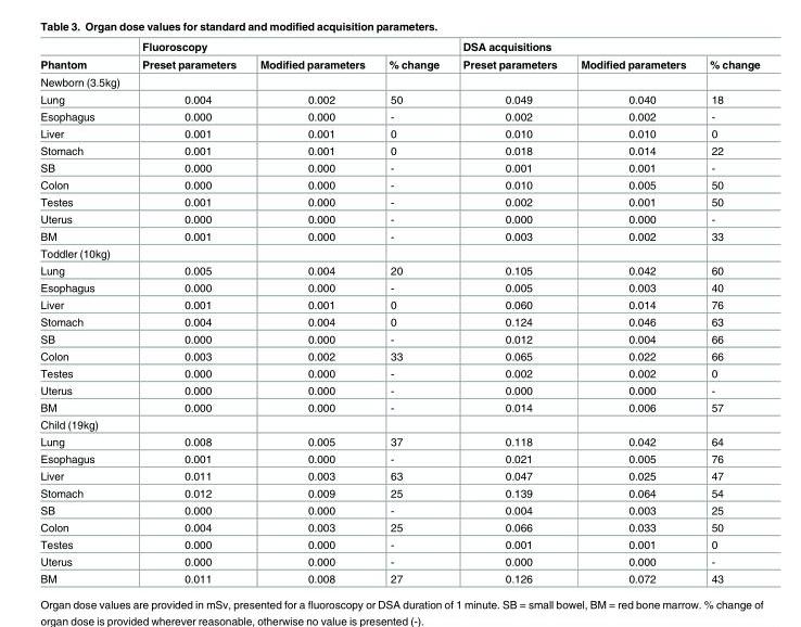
<table><thead><tr><td rowspan="2">Phantom</td><td colspan="3">Fluoroscopy</td><td colspan="3">DSA acquisitions</td></tr><tr><td>Preset parameters</td><td>Modified parameters</td><td>% change</td><td>Preset parameters</td><td>Modified parameters</td><td>% change</td></tr></thead><tbody><tr><td colspan="7">Newborn (3.5kg)</td></tr><tr><td>Lung</td><td>0.004</td><td>0.002</td><td>50</td><td>0.049</td><td>0.040</td><td>18</td></tr><tr><td>Esophagus</td><td>0.000</td><td>0.000</td><td>-</td><td>0.002</td><td>0.002</td><td>-</td></tr><tr><td>Liver</td><td>0.001</td><td>0.001</td><td>0</td><td>0.010</td><td>0.010</td><td>0</td></tr><tr><td>Stomach</td><td>0.001</td><td>0.001</td><td>0</td><td>0.018</td><td>0.014</td><td>22</td></tr><tr><td>SB</td><td>0.000</td><td>0.000</td><td>-</td><td>0.001</td><td>0.001</td><td>-</td></tr><tr><td>Colon</td><td>0.000</td><td>0.000</td><td>-</td><td>0.010</td><td>0.005</td><td>50</td></tr><tr><td>Testes</td><td>0.001</td><td>0.000</td><td>-</td><td>0.002</td><td>0.001</td><td>50</td></tr><tr><td>Uterus</td><td>0.000</td><td>0.000</td><td>-</td><td>0.000</td><td>0.000</td><td>-</td></tr><tr><td>BM</td><td>0.001</td><td>0.000</td><td>-</td><td>0.003</td><td>0.002</td><td>33</td></tr><tr><td colspan="7">Toddler (10kg)</td></tr><tr><td>Lung</td><td>0.005</td><td>0.004</td><td>20</td><td>0.105</td><td>0.042</td><td>60</td></tr><tr><td>Esophagus</td><td>0.000</td><td>0.000</td><td>-</td><td>0.005</td><td>0.003</td><td>40</td></tr><tr><td>Liver</td><td>0.001</td><td>0.001</td><td>0</td><td>0.060</td><td>0.014</td><td>76</td></tr><tr><td>Stomach</td><td>0.004</td><td>0.004</td><td>0</td><td>0.124</td><td>0.046</td><td>63</td></tr><tr><td>SB</td><td>0.000</td><td>0.000</td><td>-</td><td>0.012</td><td>0.004</td><td>66</td></tr><tr><td>Colon</td><td>0.003</td><td>0.002</td><td>33</td><td>0.065</td><td>0.022</td><td>66</td></tr><tr><td>Testes</td><td>0.000</td><td>0.000</td><td>-</td><td>0.002</td><td>0.002</td><td>0</td></tr><tr><td>Uterus</td><td>0.000</td><td>0.000</td><td>-</td><td>0.000</td><td>0.000</td><td>-</td></tr><tr><td>BM</td><td>0.000</td><td>0.000</td><td>-</td><td>0.014</td><td>0.006</td><td>57</td></tr><tr><td colspan="7">Child (19kg)</td></tr><tr><td>Lung</td><td>0.008</td><td>0.005</td><td>37</td><td>0.118</td><td>0.042</td><td>64</td></tr><tr><td>Esophagus</td><td>0.001</td><td>0.000</td><td>-</td><td>0.021</td><td>0.005</td><td>76</td></tr><tr><td>Liver</td><td>0.011</td><td>0.003</td><td>63</td><td>0.047</td><td>0.025</td><td>47</td></tr><tr><td>Stomach</td><td>0.012</td><td>0.009</td><td>25</td><td>0.139</td><td>0.064</td><td>54</td></tr><tr><td>SB</td><td>0.000</td><td>0.000</td><td>-</td><td>0.004</td><td>0.003</td><td>25</td></tr><tr><td>Colon</td><td>0.004</td><td>0.003</td><td>25</td><td>0.066</td><td>0.033</td><td>50</td></tr><tr><td>Testes</td><td>0.000</td><td>0.000</td><td>-</td><td>0.001</td><td>0.001</td><td>0</td></tr><tr><td>Uterus</td><td>0.000</td><td>0.000</td><td>-</td><td>0.000</td><td>0.000</td><td>-</td></tr><tr><td>BM</td><td>0.011</td><td>0.008</td><td>27</td><td>0.126</td><td>0.072</td><td>43</td></tr></tbody></table>